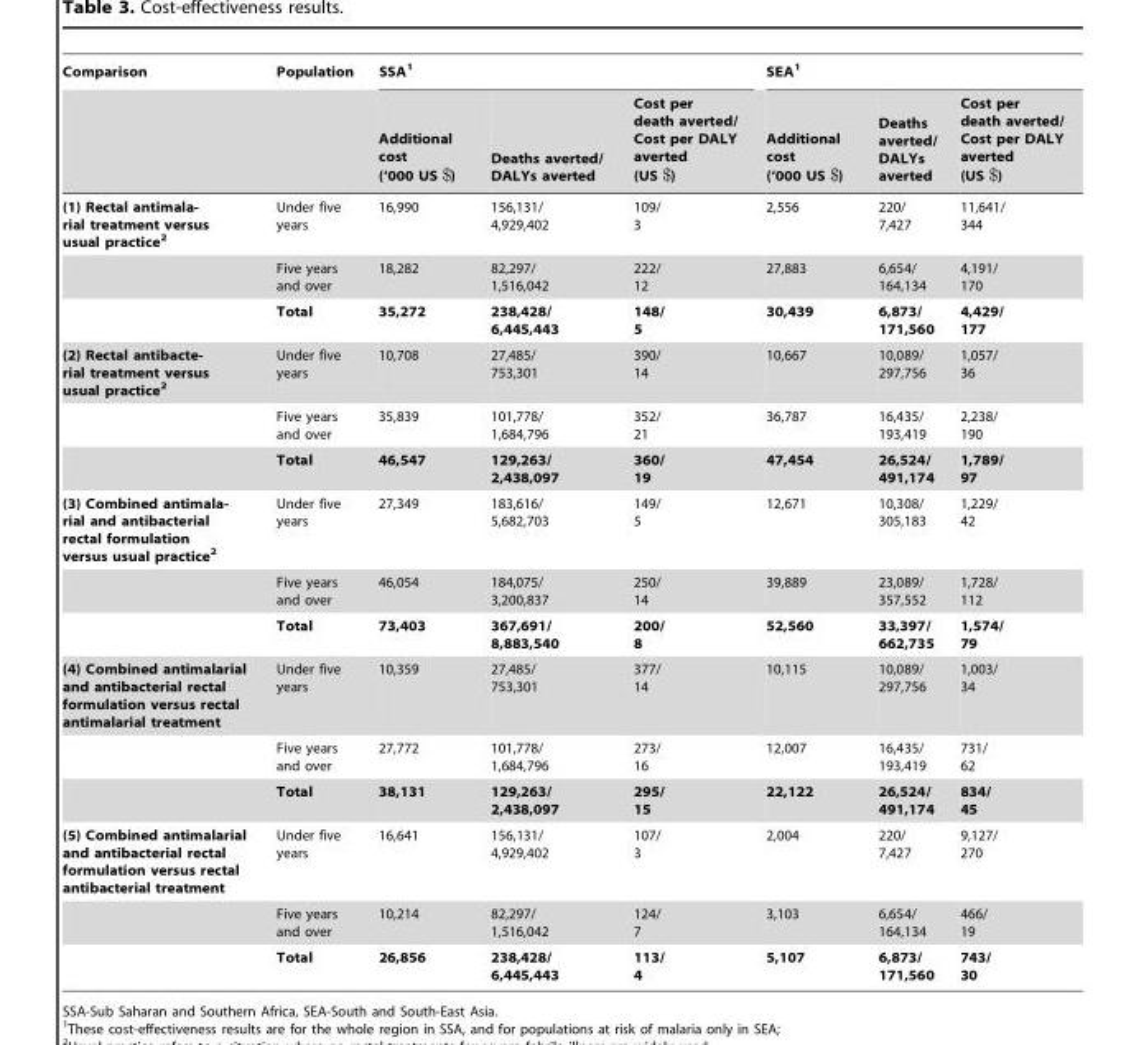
<table><thead><tr><td rowspan="2">Comparison</td><td rowspan="2">Population</td><td colspan="3">SSA<sup>1</sup></td><td colspan="3">SEA<sup>1</sup></td></tr><tr><td>Additional cost (‘000 US $)</td><td>Deaths averted/ DALYs averted</td><td>Cost per death averted/ Cost per DALY averted (US $)</td><td>Additional cost (‘000 US $)</td><td>Deaths averted/ DALYs averted</td><td>Cost per death averted/ Cost per DALY averted (US $)</td></tr></thead><tbody><tr><td rowspan="3">(1) Rectal antimala- rial treatment versus usual practice2</td><td>Under five years</td><td>16,990</td><td>156,131/ 4,929,402</td><td>109/ 3</td><td>2,556</td><td>220/ 7,427</td><td>11,641/ 344</td></tr><tr><td>Five years and over</td><td>18,282</td><td>82,297/ 1,516,042</td><td>222/ 12</td><td>27,883</td><td>6,654/ 164,134</td><td>4,191/ 170</td></tr><tr><td>Total</td><td>35,272</td><td>238,428/ 6,445,443</td><td>148/ 5</td><td>30,439</td><td>6,873/ 171,560</td><td>4,429/ 177</td></tr><tr><td rowspan="3">(2) Rectal antibacte- rial treatment versus usual practice2</td><td>Under five years</td><td>10,708</td><td>27,485/ 753,301</td><td>390/ 14</td><td>10,667</td><td>10,089/ 297,756</td><td>1,057/ 36</td></tr><tr><td>Five years and over</td><td>35,839</td><td>101,778/ 1,684,796</td><td>352/ 21</td><td>36,787</td><td>16,435/ 193,419</td><td>2,238/ 190</td></tr><tr><td>Total</td><td>46,547</td><td>129,263/ 2,438,097</td><td>360/ 19</td><td>47,454</td><td>26,524/ 491,174</td><td>1,789/ 97</td></tr><tr><td rowspan="3">(3) Combined antimala- rial and antibacterial rectal formulation versus usual practice2</td><td>Under five years</td><td>27,349</td><td>183,616/ 5,682,703</td><td>149/ 5</td><td>12,671</td><td>10,308/ 305,183</td><td>1,229/ 42</td></tr><tr><td>Five years and over</td><td>46,054</td><td>184,075/ 3,200,837</td><td>250/ 14</td><td>39,889</td><td>23,089/ 357,552</td><td>1,728/ 112</td></tr><tr><td>Total</td><td>73,403</td><td>367,691/ 8,883,540</td><td>200/ 8</td><td>52,560</td><td>33,397/ 662,735</td><td>1,574/ 79</td></tr><tr><td rowspan="3">(4) Combined antimalarial and antibacterial rectal formulation versus rectal antimalarial treatment</td><td>Under five years</td><td>10,359</td><td>27,485/ 753,301</td><td>377/ 14</td><td>10,115</td><td>10,089/ 297,756</td><td>1,003/ 34</td></tr><tr><td>Five years and over</td><td>27,772</td><td>101,778/ 1,684,796</td><td>273/ 16</td><td>12,007</td><td>16,435/ 193,419</td><td>731/ 62</td></tr><tr><td>Total</td><td>38,131</td><td>129,263/ 2,438,097</td><td>295/ 15</td><td>22,122</td><td>26,524/ 491,174</td><td>834/ 45</td></tr><tr><td rowspan="3">(5) Combined antimalarial and antibacterial rectal formulation versus rectal antibacterial treatment</td><td>Under five years</td><td>16,641</td><td>156,131/ 4,929,402</td><td>107/ 3</td><td>2,004</td><td>220/ 7,427</td><td>9,127/ 270</td></tr><tr><td>Five years and over</td><td>10,214</td><td>82,297/ 1,516,042</td><td>124/ 7</td><td>3,103</td><td>6,654/ 164,134</td><td>466/ 19</td></tr><tr><td>Total</td><td>26,856</td><td>238,428/ 6,445,443</td><td>113/ 4</td><td>5,107</td><td>6,873/ 171,560</td><td>743/ 30</td></tr></tbody></table>